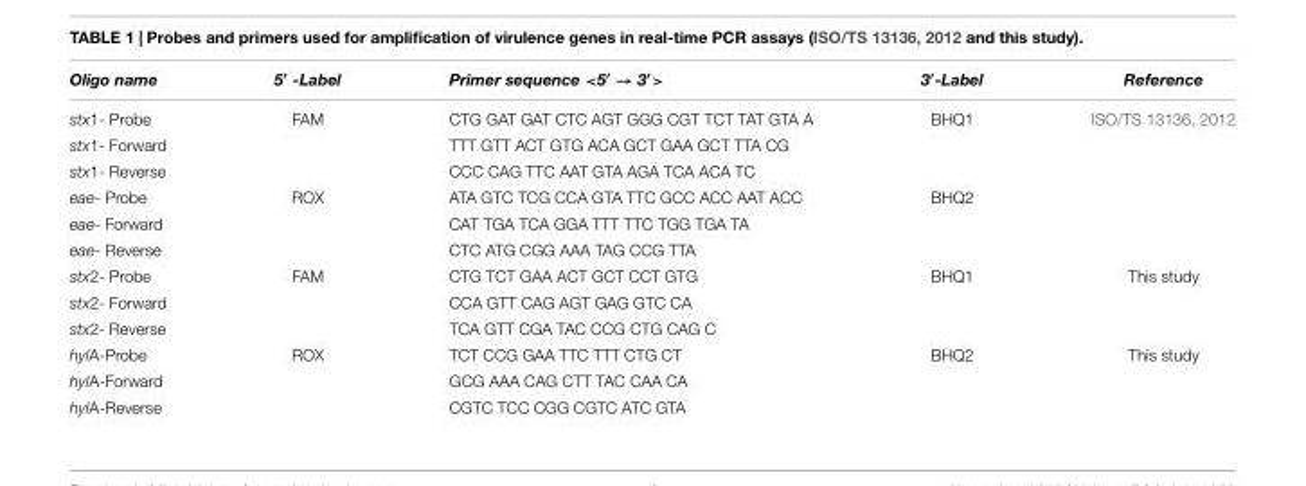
<table><thead><tr><td>Oligo name</td><td>5′ -Label</td><td>Primer sequence &lt;5′ → 3′&gt;</td><td>3′-Label</td><td>Reference</td></tr></thead><tbody><tr><td>stx1- Probe</td><td>FAM</td><td>CTG GAT GAT CTC AGT GGG CGT TCT TAT GTA A</td><td>BHQ1</td><td>ISO/TS 13136, 2012</td></tr><tr><td>stx1- Forward</td><td></td><td>TTT GTT ACT GTG ACA GCT GAA GCT TTA CG</td><td></td><td></td></tr><tr><td>stx1- Reverse</td><td></td><td>CCC CAG TTC AAT GTA AGA TCA ACA TC</td><td></td><td></td></tr><tr><td>eae- Probe</td><td>ROX</td><td>ATA GTC TCG CCA GTA TTC GCC ACC AAT ACC</td><td>BHQ2</td><td></td></tr><tr><td>eae- Forward</td><td></td><td>CAT TGA TCA GGA TTT TTC TGG TGA TA</td><td></td><td></td></tr><tr><td>eae- Reverse</td><td></td><td>CTC ATG CGG AAA TAG CCG TTA</td><td></td><td></td></tr><tr><td>stx2- Probe</td><td>FAM</td><td>CTG TCT GAA ACT GCT CCT GTG</td><td>BHQ1</td><td>This study</td></tr><tr><td>stx2- Forward</td><td></td><td>CCA GTT CAG AGT GAG GTC CA</td><td></td><td></td></tr><tr><td>stx2- Reverse</td><td></td><td>TCA GTT CGA TAC CCG CTG CAG C</td><td></td><td></td></tr><tr><td>hylA-Probe</td><td>ROX</td><td>TCT CCG GAA TTC TTT CTG CT</td><td>BHQ2</td><td>This study</td></tr><tr><td>hylA-Forward</td><td></td><td>GCG AAA CAG CTT TAC CAA CA</td><td></td><td></td></tr><tr><td>hylA-Reverse</td><td></td><td>CGTC TCC CGG CGTC ATC GTA</td><td></td><td></td></tr></tbody></table>